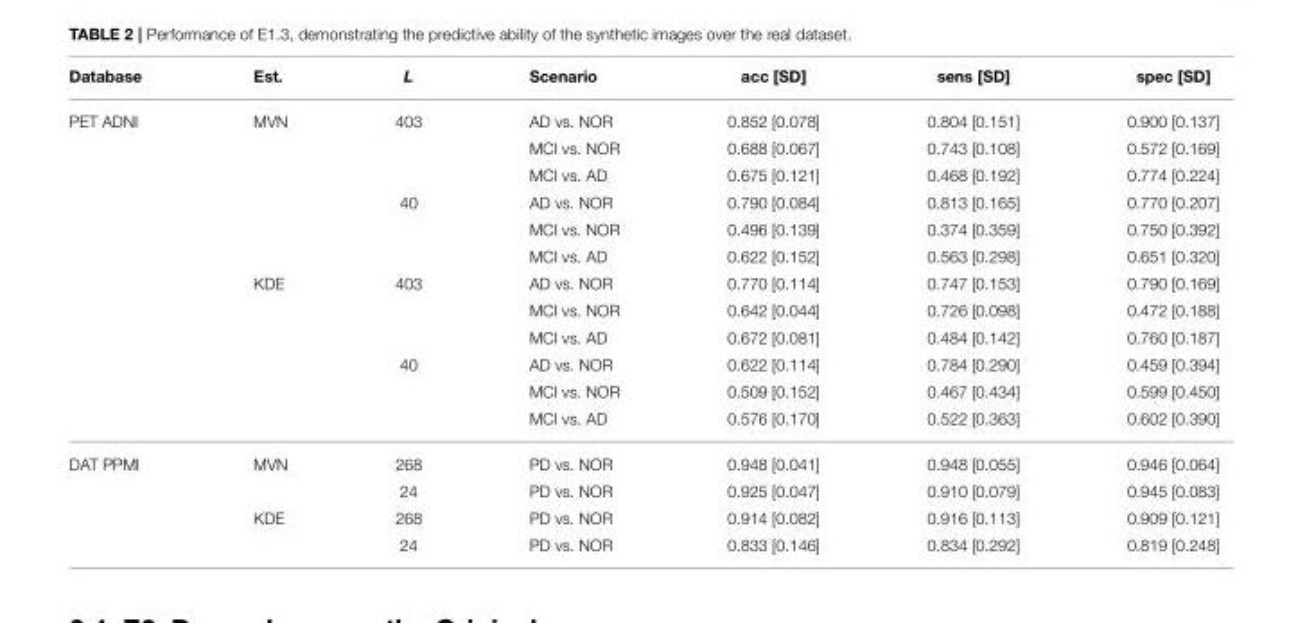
<table><thead><tr><td>Database</td><td>Est.</td><td>L</td><td>Scenario</td><td>acc [SD]</td><td>sens [SD]</td><td>spec [SD]</td></tr></thead><tbody><tr><td rowspan="12">PET ADNI</td><td>MVN</td><td>403</td><td>AD vs. NOR</td><td>0.852 [0.078]</td><td>0.804 [0.151]</td><td>0.900 [0.137]</td></tr><tr><td></td><td></td><td>MCI vs. NOR</td><td>0.688 [0.067]</td><td>0.743 [0.108]</td><td>0.572 [0.169]</td></tr><tr><td></td><td></td><td>MCI vs. AD</td><td>0.675 [0.121]</td><td>0.468 [0.192]</td><td>0.774 [0.224]</td></tr><tr><td></td><td>40</td><td>AD vs. NOR</td><td>0.790 [0.084]</td><td>0.813 [0.165]</td><td>0.770 [0.207]</td></tr><tr><td></td><td></td><td>MCI vs. NOR</td><td>0.496 [0.139]</td><td>0.374 [0.359]</td><td>0.750 [0.392]</td></tr><tr><td></td><td></td><td>MCI vs. AD</td><td>0.622 [0.152]</td><td>0.563 [0.298]</td><td>0.651 [0.320]</td></tr><tr><td>KDE</td><td>403</td><td>AD vs. NOR</td><td>0.770 [0.114]</td><td>0.747 [0.153]</td><td>0.790 [0.169]</td></tr><tr><td></td><td></td><td>MCI vs. NOR</td><td>0.642 [0.044]</td><td>0.726 [0.098]</td><td>0.472 [0.188]</td></tr><tr><td></td><td></td><td>MCI vs. AD</td><td>0.672 [0.081]</td><td>0.484 [0.142]</td><td>0.760 [0.187]</td></tr><tr><td></td><td>40</td><td>AD vs. NOR</td><td>0.622 [0.114]</td><td>0.784 [0.290]</td><td>0.459 [0.394]</td></tr><tr><td></td><td></td><td>MCI vs. NOR</td><td>0.509 [0.152]</td><td>0.467 [0.434]</td><td>0.599 [0.450]</td></tr><tr><td></td><td></td><td>MCI vs. AD</td><td>0.576 [0.170]</td><td>0.522 [0.363]</td><td>0.602 [0.390]</td></tr><tr><td rowspan="4">DAT PPMI</td><td>MVN</td><td>268</td><td>PD vs. NOR</td><td>0.948 [0.041]</td><td>0.948 [0.055]</td><td>0.946 [0.064]</td></tr><tr><td></td><td>24</td><td>PD vs. NOR</td><td>0.925 [0.047]</td><td>0.910 [0.079]</td><td>0.945 [0.083]</td></tr><tr><td>KDE</td><td>268</td><td>PD vs. NOR</td><td>0.914 [0.082]</td><td>0.916 [0.113]</td><td>0.909 [0.121]</td></tr><tr><td></td><td>24</td><td>PD vs. NOR</td><td>0.833 [0.146]</td><td>0.834 [0.292]</td><td>0.819 [0.248]</td></tr></tbody></table>